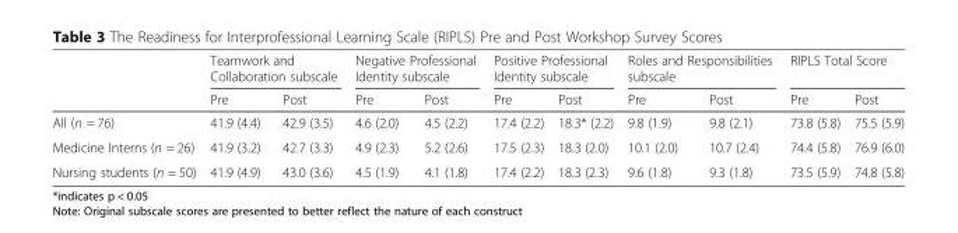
<table><thead><tr><td rowspan="2"></td><td colspan="2">Teamwork and Collaboration subscale</td><td colspan="2">Negative Professional Identity subscale</td><td colspan="2">Positive Professional Identity subscale</td><td colspan="2">Roles and Responsibilities subscale</td><td colspan="2">RIPLS Total Score</td></tr><tr><td>Pre</td><td>Post</td><td>Pre</td><td>Post</td><td>Pre</td><td>Post</td><td>Pre</td><td>Post</td><td>Pre</td><td>Post</td></tr></thead><tbody><tr><td>All (n = 76)</td><td>41.9 (4.4)</td><td>42.9 (3.5)</td><td>4.6 (2.0)</td><td>4.5 (2.2)</td><td>17.4 (2.2)</td><td>18.3* (2.2)</td><td>9.8 (1.9)</td><td>9.8 (2.1)</td><td>73.8 (5.8)</td><td>75.5 (5.9)</td></tr><tr><td>Medicine Interns (n = 26)</td><td>41.9 (3.2)</td><td>42.7 (3.3)</td><td>4.9 (2.3)</td><td>5.2 (2.6)</td><td>17.5 (2.3)</td><td>18.3 (2.0)</td><td>10.1 (2.0)</td><td>10.7 (2.4)</td><td>74.4 (5.8)</td><td>76.9 (6.0)</td></tr><tr><td>Nursing students (n = 50)</td><td>41.9 (4.9)</td><td>43.0 (3.6)</td><td>4.5 (1.9)</td><td>4.1 (1.8)</td><td>17.4 (2.2)</td><td>18.3 (2.3)</td><td>9.6 (1.8)</td><td>9.3 (1.8)</td><td>73.5 (5.9)</td><td>74.8 (5.8)</td></tr></tbody></table>